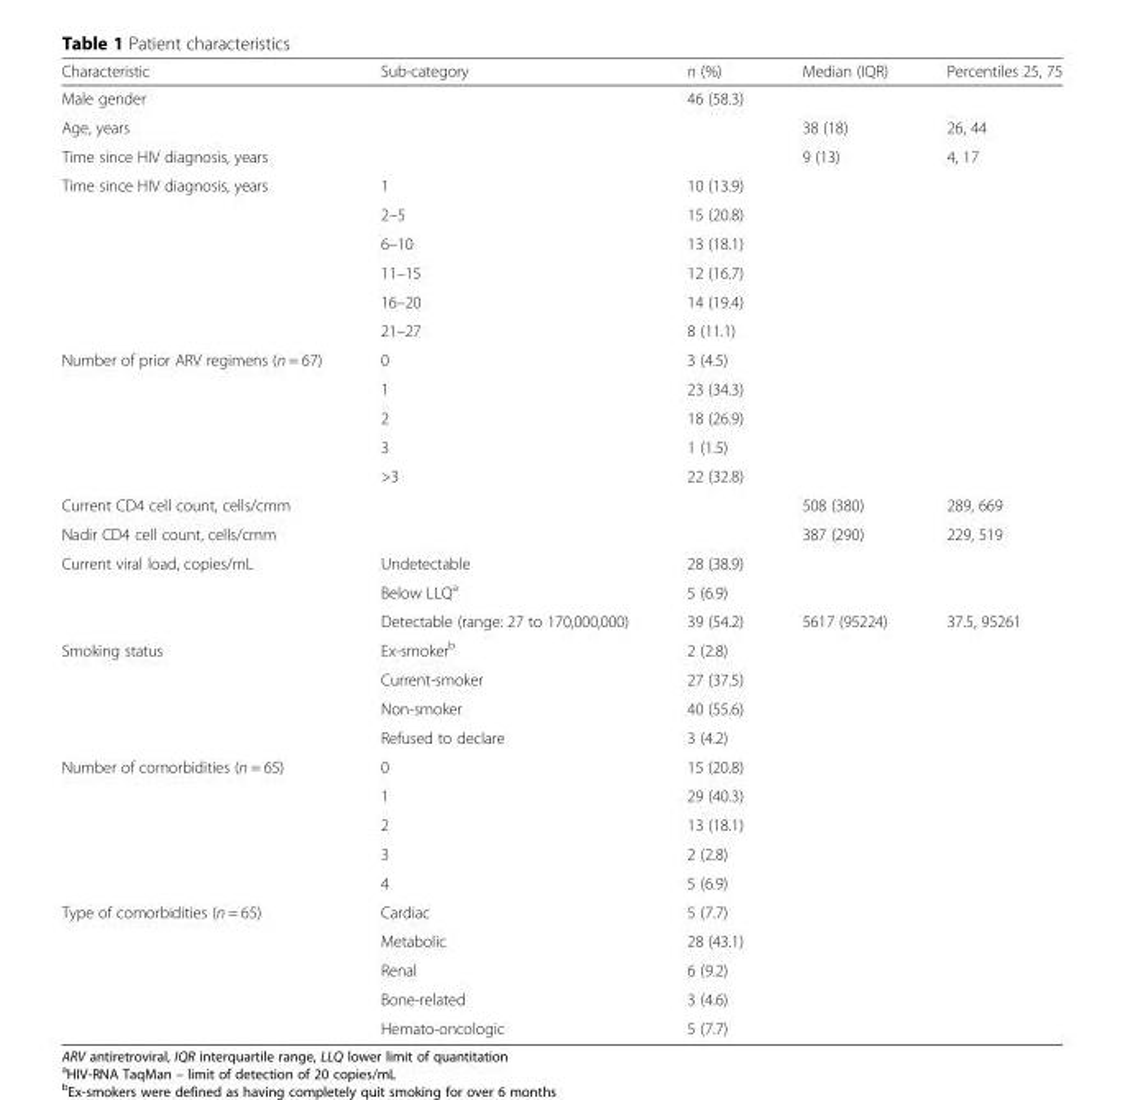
<table><thead><tr><td>Characteristic</td><td>Sub-category</td><td>n (%)</td><td>Median (IQR)</td><td>Percentiles 25, 75</td></tr></thead><tbody><tr><td>Male gender</td><td></td><td>46 (58.3)</td><td></td><td></td></tr><tr><td>Age, years</td><td></td><td></td><td>38 (18)</td><td>26, 44</td></tr><tr><td>Time since HIV diagnosis, years</td><td></td><td></td><td>9 (13)</td><td>4, 17</td></tr><tr><td rowspan="6">Time since HIV diagnosis, years</td><td>1</td><td>10 (13.9)</td><td></td><td></td></tr><tr><td>2–5</td><td>15 (20.8)</td><td></td><td></td></tr><tr><td>6–10</td><td>13 (18.1)</td><td></td><td></td></tr><tr><td>11–15</td><td>12 (16.7)</td><td></td><td></td></tr><tr><td>16–20</td><td>14 (19.4)</td><td></td><td></td></tr><tr><td>21–27</td><td>8 (11.1)</td><td></td><td></td></tr><tr><td rowspan="5">Number of prior ARV regimens (n = 67)</td><td>0</td><td>3 (4.5)</td><td></td><td></td></tr><tr><td>1</td><td>23 (34.3)</td><td></td><td></td></tr><tr><td>2</td><td>18 (26.9)</td><td></td><td></td></tr><tr><td>3</td><td>1 (1.5)</td><td></td><td></td></tr><tr><td>&gt;3</td><td>22 (32.8)</td><td></td><td></td></tr><tr><td>Current CD4 cell count, cells/cmm</td><td></td><td></td><td>508 (380)</td><td>289, 669</td></tr><tr><td>Nadir CD4 cell count, cells/cmm</td><td></td><td></td><td>387 (290)</td><td>229, 519</td></tr><tr><td rowspan="3">Current viral load, copies/mL</td><td>Undetectable</td><td>28 (38.9)</td><td></td><td></td></tr><tr><td>Below LLQ<sup>a</sup></td><td>5 (6.9)</td><td></td><td></td></tr><tr><td>Detectable (range: 27 to 170,000,000)</td><td>39 (54.2)</td><td>5617 (95224)</td><td>37.5, 95261</td></tr><tr><td rowspan="4">Smoking status</td><td>Ex-smoker<sup>b</sup></td><td>2 (2.8)</td><td></td><td></td></tr><tr><td>Current-smoker</td><td>27 (37.5)</td><td></td><td></td></tr><tr><td>Non-smoker</td><td>40 (55.6)</td><td></td><td></td></tr><tr><td>Refused to declare</td><td>3 (4.2)</td><td></td><td></td></tr><tr><td rowspan="5">Number of comorbidities (n = 65)</td><td>0</td><td>15 (20.8)</td><td></td><td></td></tr><tr><td>1</td><td>29 (40.3)</td><td></td><td></td></tr><tr><td>2</td><td>13 (18.1)</td><td></td><td></td></tr><tr><td>3</td><td>2 (2.8)</td><td></td><td></td></tr><tr><td>4</td><td>5 (6.9)</td><td></td><td></td></tr><tr><td rowspan="5">Type of comorbidities (n = 65)</td><td>Cardiac</td><td>5 (7.7)</td><td></td><td></td></tr><tr><td>Metabolic</td><td>28 (43.1)</td><td></td><td></td></tr><tr><td>Renal</td><td>6 (9.2)</td><td></td><td></td></tr><tr><td>Bone-related</td><td>3 (4.6)</td><td></td><td></td></tr><tr><td>Hemato-oncologic</td><td>5 (7.7)</td><td></td><td></td></tr></tbody></table>